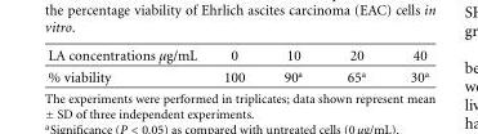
<table><thead><tr><td>LA concentrations μg/mL</td><td>0</td><td>10</td><td>20</td><td>40</td></tr></thead><tbody><tr><td>% viability</td><td>100</td><td>90<sup>a</sup></td><td>65<sup>a</sup></td><td>30<sup>a</sup></td></tr></tbody></table>